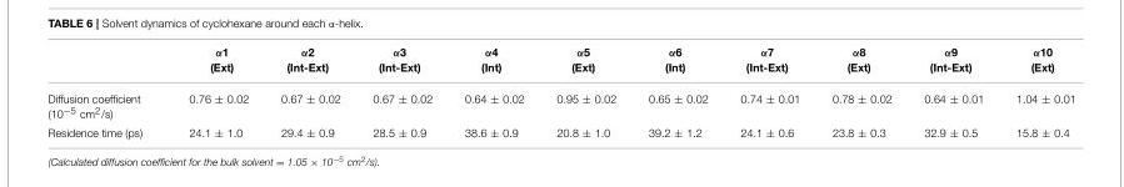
<table><thead><tr><td></td><td>α1 (Ext)</td><td>α2 (Int-Ext)</td><td>α3 (Int-Ext)</td><td>α4 (Int)</td><td>α5 (Ext)</td><td>α6 (Int)</td><td>α7 (Int-Ext)</td><td>α8 (Ext)</td><td>α9 (Int-Ext)</td><td>α10 (Ext)</td></tr></thead><tbody><tr><td>Diffusion coefficient (10<sup>−5</sup> cm<sup>2</sup>/s)</td><td>0.76 ± 0.02</td><td>0.67 ± 0.02</td><td>0.67 ± 0.02</td><td>0.64 ± 0.02</td><td>0.95 ± 0.02</td><td>0.65 ± 0.02</td><td>0.74 ± 0.01</td><td>0.78 ± 0.02</td><td>0.64 ± 0.01</td><td>1.04 ± 0.01</td></tr><tr><td>Residence time (ps)</td><td>24.1 ± 1.0</td><td>29.4 ± 0.9</td><td>28.5 ± 0.9</td><td>38.6 ± 0.9</td><td>20.8 ± 1.0</td><td>39.2 ± 1.2</td><td>24.1 ± 0.6</td><td>23.8 ± 0.3</td><td>32.9 ± 0.5</td><td>15.8 ± 0.4</td></tr></tbody></table>